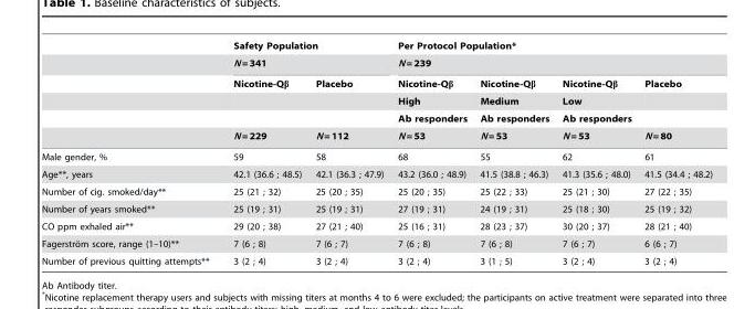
<table><thead><tr><td rowspan="6"></td><td rowspan="2" colspan="2">Safety Population N = 341</td><td rowspan="2" colspan="4">Per Protocol Population* N = 239</td></tr><tr></tr><tr><td rowspan="4">Nicotine-Qβ N = 229</td><td rowspan="4">Placebo N = 112</td><td rowspan="4">Nicotine-Qβ High Ab responders N = 53</td><td rowspan="4">Nicotine-Qβ Medium Ab responders N = 53</td><td rowspan="4">Nicotine-Qβ Low Ab responders N = 53</td><td rowspan="4">Placebo N = 80</td></tr><tr></tr><tr></tr><tr></tr></thead><tbody><tr><td>Male gender, %</td><td>59</td><td>58</td><td>68</td><td>55</td><td>62</td><td>61</td></tr><tr><td>Age**, years</td><td>42.1 (36.6 ; 48.5)</td><td>42.1 (36.3 ; 47.9)</td><td>43.2 (36.0 ; 48.9)</td><td>41.5 (38.8 ; 46.3)</td><td>41.3 (35.6 ; 48.0)</td><td>41.5 (34.4 ; 48.2)</td></tr><tr><td>Number of cig. smoked/day**</td><td>25 (21 ; 32)</td><td>25 (20 ; 35)</td><td>25 (20 ; 35)</td><td>25 (22 ; 33)</td><td>25 (21 ; 30)</td><td>27 (22 ; 35)</td></tr><tr><td>Number of years smoked**</td><td>25 (19 ; 31)</td><td>25 (19 ; 31)</td><td>27 (19 ; 31)</td><td>24 (19 ; 31)</td><td>25 (18 ; 30)</td><td>25 (19 ; 32)</td></tr><tr><td>CO ppm exhaled air**</td><td>29 (20 ; 38)</td><td>27 (21 ; 40)</td><td>25 (16 ; 31)</td><td>28 (23 ; 37)</td><td>30 (20 ; 37)</td><td>28 (21 ; 40)</td></tr><tr><td>Fagerstro¨m score, range (1–10)**</td><td>7 (6 ; 8)</td><td>7 (6 ; 7)</td><td>7 (6 ; 8)</td><td>7 (6 ; 8)</td><td>7 (6 ; 7)</td><td>6 (6 ; 7)</td></tr><tr><td>Number of previous quitting attempts**</td><td>3 (2 ; 4)</td><td>3 (2 ; 4)</td><td>3 (2 ; 4)</td><td>3 (1 ; 5)</td><td>3 (2 ; 4)</td><td>3 (2 ; 4)</td></tr></tbody></table>